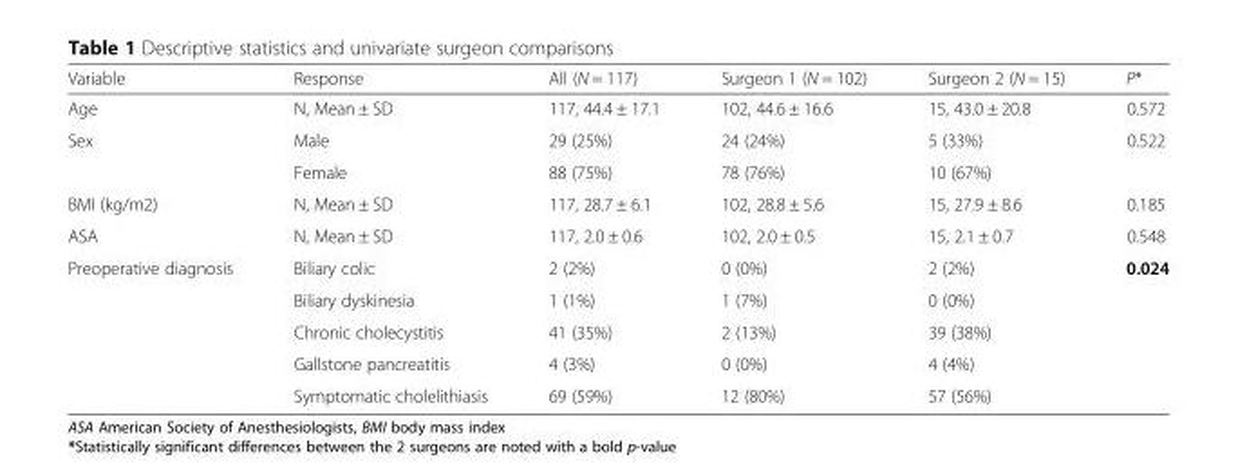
<table><thead><tr><td>Variable</td><td>Response</td><td>All (N = 117)</td><td>Surgeon 1 (N = 102)</td><td>Surgeon 2 (N = 15)</td><td>P*</td></tr></thead><tbody><tr><td>Age</td><td>N, Mean ± SD</td><td>117, 44.4 ± 17.1</td><td>102, 44.6 ± 16.6</td><td>15, 43.0 ± 20.8</td><td>0.572</td></tr><tr><td rowspan="2">Sex</td><td>Male</td><td>29 (25%)</td><td>24 (24%)</td><td>5 (33%)</td><td>0.522</td></tr><tr><td>Female</td><td>88 (75%)</td><td>78 (76%)</td><td>10 (67%)</td><td></td></tr><tr><td>BMI (kg/m2)</td><td>N, Mean ± SD</td><td>117, 28.7 ± 6.1</td><td>102, 28.8 ± 5.6</td><td>15, 27.9 ± 8.6</td><td>0.185</td></tr><tr><td>ASA</td><td>N, Mean ± SD</td><td>117, 2.0 ± 0.6</td><td>102, 2.0 ± 0.5</td><td>15, 2.1 ± 0.7</td><td>0.548</td></tr><tr><td rowspan="5">Preoperative diagnosis</td><td>Biliary colic</td><td>2 (2%)</td><td>0 (0%)</td><td>2 (2%)</td><td>0.024</td></tr><tr><td>Biliary dyskinesia</td><td>1 (1%)</td><td>1 (7%)</td><td>0 (0%)</td><td rowspan="4"></td></tr><tr><td>Chronic cholecystitis</td><td>41 (35%)</td><td>2 (13%)</td><td>39 (38%)</td></tr><tr><td>Gallstone pancreatitis</td><td>4 (3%)</td><td>0 (0%)</td><td>4 (4%)</td></tr><tr><td>Symptomatic cholelithiasis</td><td>69 (59%)</td><td>12 (80%)</td><td>57 (56%)</td></tr></tbody></table>